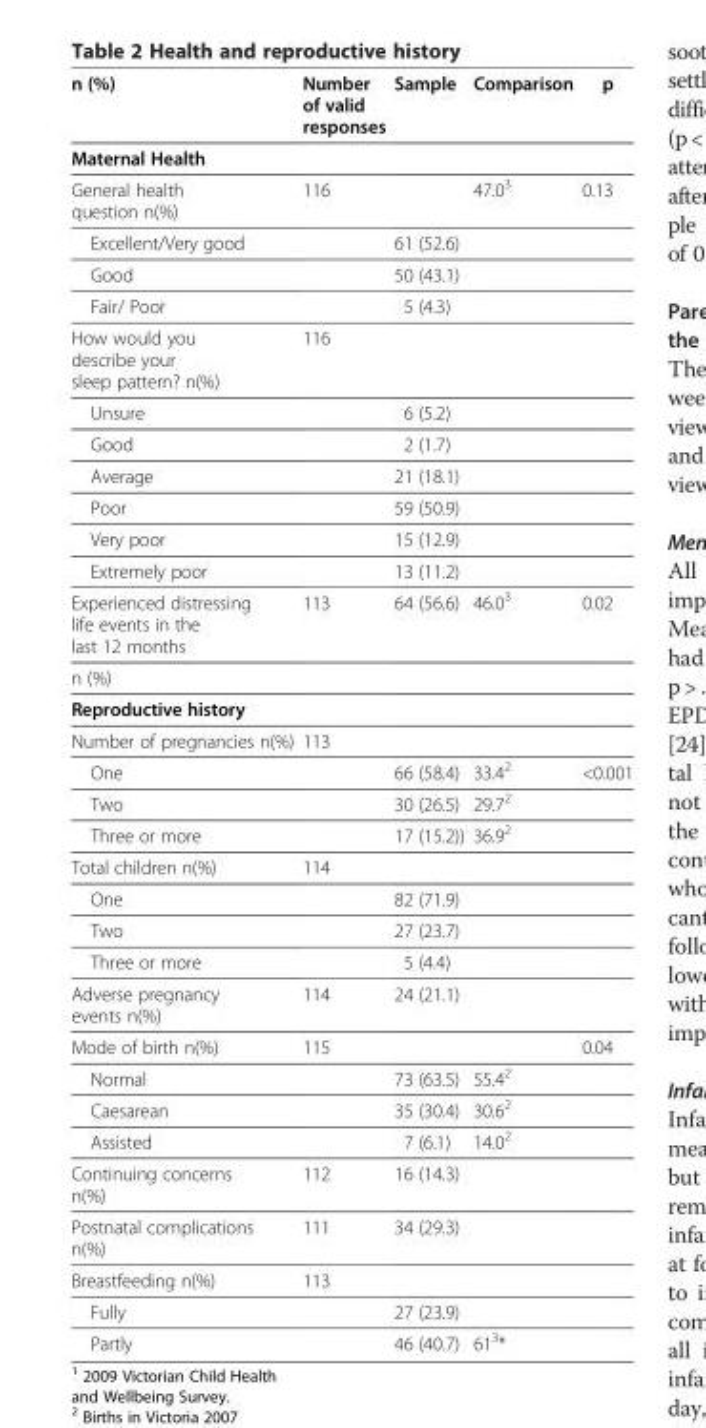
<table><thead><tr><td>n (%)</td><td>Number of valid responses</td><td>Sample</td><td>Comparison</td><td>p</td></tr></thead><tbody><tr><td colspan="5">Maternal Health</td></tr><tr><td>General health question n(%)</td><td>116</td><td></td><td>47.0<sup>3</sup></td><td>0.13</td></tr><tr><td>Excellent/Very good</td><td></td><td>61 (52.6)</td><td></td><td></td></tr><tr><td>Good</td><td></td><td>50 (43.1)</td><td></td><td></td></tr><tr><td>Fair/ Poor</td><td></td><td>5 (4.3)</td><td></td><td></td></tr><tr><td>How would you describe your sleep pattern? n(%)</td><td>116</td><td></td><td></td><td></td></tr><tr><td>Unsure</td><td></td><td>6 (5.2)</td><td></td><td></td></tr><tr><td>Good</td><td></td><td>2 (1.7)</td><td></td><td></td></tr><tr><td>Average</td><td></td><td>21 (18.1)</td><td></td><td></td></tr><tr><td>Poor</td><td></td><td>59 (50.9)</td><td></td><td></td></tr><tr><td>Very poor</td><td></td><td>15 (12.9)</td><td></td><td></td></tr><tr><td>Extremely poor</td><td></td><td>13 (11.2)</td><td></td><td></td></tr><tr><td>Experienced distressing life events in the last 12 months</td><td>113</td><td>64 (56.6)</td><td>46.0<sup>3</sup></td><td>0.02</td></tr><tr><td colspan="5">n (%)</td></tr><tr><td colspan="5">Reproductive history</td></tr><tr><td>Number of pregnancies n(%)</td><td>113</td><td></td><td></td><td></td></tr><tr><td>One</td><td></td><td>66 (58.4)</td><td>33.4<sup>2</sup></td><td>&lt;0.001</td></tr><tr><td>Two</td><td></td><td>30 (26.5)</td><td>29.7<sup>2</sup></td><td></td></tr><tr><td>Three or more</td><td></td><td>17 (15.2))</td><td>36.9<sup>2</sup></td><td></td></tr><tr><td>Total children n(%)</td><td>114</td><td></td><td></td><td></td></tr><tr><td>One</td><td></td><td>82 (71.9)</td><td></td><td></td></tr><tr><td>Two</td><td></td><td>27 (23.7)</td><td></td><td></td></tr><tr><td>Three or more</td><td></td><td>5 (4.4)</td><td></td><td></td></tr><tr><td>Adverse pregnancy events n(%)</td><td>114</td><td>24 (21.1)</td><td></td><td></td></tr><tr><td>Mode of birth n(%)</td><td>115</td><td></td><td></td><td>0.04</td></tr><tr><td>Normal</td><td></td><td>73 (63.5)</td><td>55.4<sup>2</sup></td><td></td></tr><tr><td>Caesarean</td><td></td><td>35 (30.4)</td><td>30.6<sup>2</sup></td><td></td></tr><tr><td>Assisted</td><td></td><td>7 (6.1)</td><td>14.0<sup>2</sup></td><td></td></tr><tr><td>Continuing concerns n(%)</td><td>112</td><td>16 (14.3)</td><td></td><td></td></tr><tr><td>Postnatal complications n(%)</td><td>111</td><td>34 (29.3)</td><td></td><td></td></tr><tr><td>Breastfeeding n(%)</td><td>113</td><td></td><td></td><td></td></tr><tr><td>Fully</td><td></td><td>27 (23.9)</td><td></td><td></td></tr><tr><td>Partly</td><td></td><td>46 (40.7)</td><td>61<sup>3</sup>*</td><td></td></tr></tbody></table>